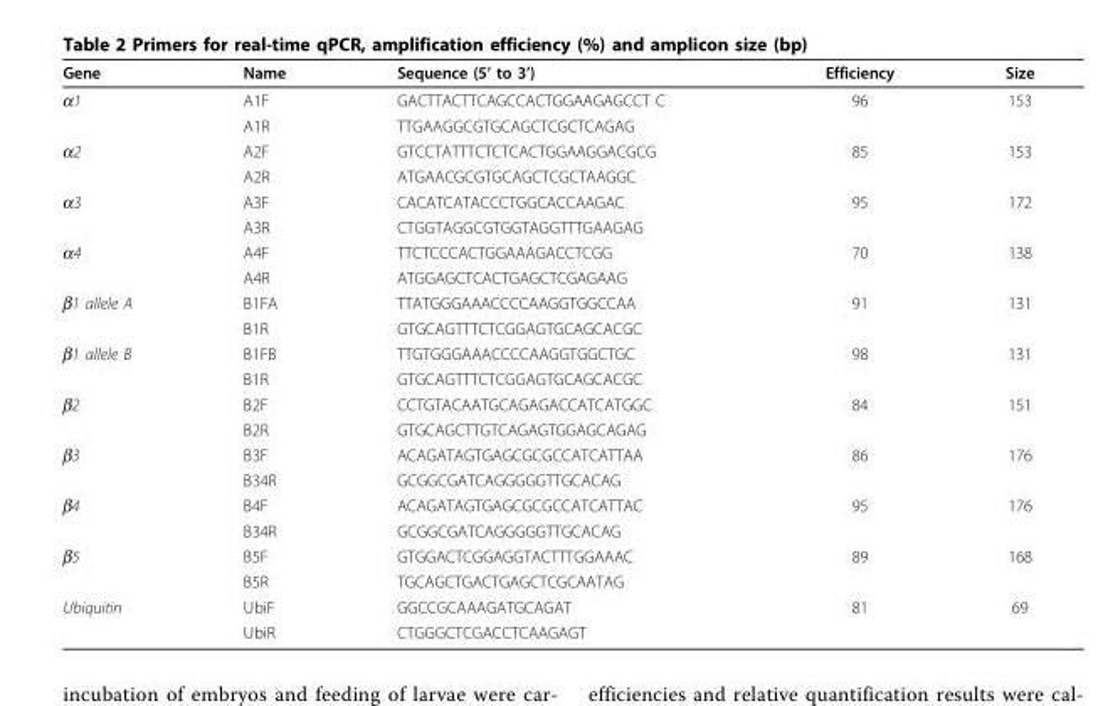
<table><thead><tr><td>Gene</td><td>Name</td><td>Sequence (5’ to 3’)</td><td>Efficiency</td><td>Size</td></tr></thead><tbody><tr><td rowspan="2">α1</td><td>A1F</td><td>GACTTACTTCAGCCACTGGAAGAGCCT C</td><td>96</td><td>153</td></tr><tr><td>A1R</td><td>TTGAAGGCGTGCAGCTCGCTCAGAG</td><td></td><td></td></tr><tr><td rowspan="2">α2</td><td>A2F</td><td>GTCCTATTTCTCTCACTGGAAGGACGCG</td><td>85</td><td>153</td></tr><tr><td>A2R</td><td>ATGAACGCGTGCAGCTCGCTAAGGC</td><td></td><td></td></tr><tr><td rowspan="2">α3</td><td>A3F</td><td>CACATCATACCCTGGCACCAAGAC</td><td>95</td><td>172</td></tr><tr><td>A3R</td><td>CTGGTAGGCGTGGTAGGTTTGAAGAG</td><td></td><td></td></tr><tr><td rowspan="2">α4</td><td>A4F</td><td>TTCTCCCACTGGAAAGACCTCGG</td><td>70</td><td>138</td></tr><tr><td>A4R</td><td>ATGGAGCTCACTGAGCTCGAGAAG</td><td></td><td></td></tr><tr><td rowspan="2">β1 allele A</td><td>B1FA</td><td>TTATGGGAAACCCCAAGGTGGCCAA</td><td>91</td><td>131</td></tr><tr><td>B1R</td><td>GTGCAGTTTCTCGGAGTGCAGCACGC</td><td></td><td></td></tr><tr><td rowspan="2">β1 allele B</td><td>B1FB</td><td>TTGTGGGAAACCCCAAGGTGGCTGC</td><td>98</td><td>131</td></tr><tr><td>B1R</td><td>GTGCAGTTTCTCGGAGTGCAGCACGC</td><td></td><td></td></tr><tr><td rowspan="2">β2</td><td>B2F</td><td>CCTGTACAATGCAGAGACCATCATGGC</td><td>84</td><td>151</td></tr><tr><td>B2R</td><td>GTGCAGCTTGTCAGAGTGGAGCAGAG</td><td></td><td></td></tr><tr><td rowspan="2">β3</td><td>B3F</td><td>ACAGATAGTGAGCGCGCCATCATTAA</td><td>86</td><td>176</td></tr><tr><td>B34R</td><td>GCGGCGATCAGGGGGTTGCACAG</td><td></td><td></td></tr><tr><td rowspan="2">β4</td><td>B4F</td><td>ACAGATAGTGAGCGCGCCATCATTAC</td><td>95</td><td>176</td></tr><tr><td>B34R</td><td>GCGGCGATCAGGGGGTTGCACAG</td><td></td><td></td></tr><tr><td rowspan="2">β5</td><td>B5F</td><td>GTGGACTCGGAGGTACTTTGGAAAC</td><td>89</td><td>168</td></tr><tr><td>B5R</td><td>TGCAGCTGACTGAGCTCGCAATAG</td><td></td><td></td></tr><tr><td rowspan="2">Ubiquitin</td><td>UbiF</td><td>GGCCGCAAAGATGCAGAT</td><td>81</td><td>69</td></tr><tr><td>UbiR</td><td>CTGGGCTCGACCTCAAGAGT</td><td></td><td></td></tr></tbody></table>